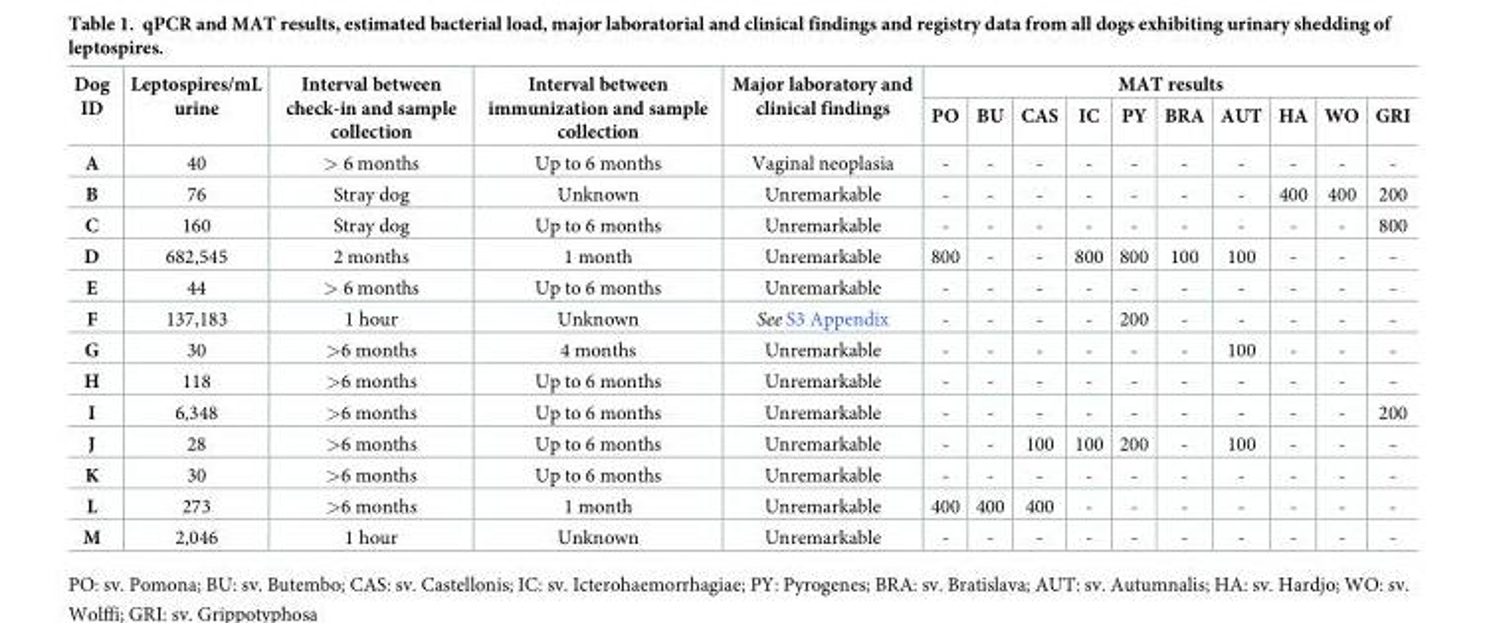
<table><thead><tr><td rowspan="2">Dog ID</td><td rowspan="2">Leptospires/mL urine</td><td rowspan="2">Interval between check-in and sample collection</td><td rowspan="2">Interval between immunization and sample collection</td><td rowspan="2">Major laboratory and clinical findings</td><td colspan="10">MAT results</td></tr><tr><td>PO</td><td>BU</td><td>CAS</td><td>IC</td><td>PY</td><td>BRA</td><td>AUT</td><td>HA</td><td>WO</td><td>GRI</td></tr></thead><tbody><tr><td>A</td><td>40</td><td>&gt; 6 months</td><td>Up to 6 months</td><td>Vaginal neoplasia</td><td>-</td><td>-</td><td>-</td><td>-</td><td>-</td><td>-</td><td>-</td><td>-</td><td>-</td><td>-</td></tr><tr><td>B</td><td>76</td><td>Stray dog</td><td>Unknown</td><td>Unremarkable</td><td>-</td><td>-</td><td>-</td><td>-</td><td>-</td><td>-</td><td>-</td><td>400</td><td>400</td><td>200</td></tr><tr><td>C</td><td>160</td><td>Stray dog</td><td>Up to 6 months</td><td>Unremarkable</td><td>-</td><td>-</td><td>-</td><td>-</td><td>-</td><td>-</td><td>-</td><td>-</td><td>-</td><td>800</td></tr><tr><td>D</td><td>682,545</td><td>2 months</td><td>1 month</td><td>Unremarkable</td><td>800</td><td>-</td><td>-</td><td>800</td><td>800</td><td>100</td><td>100</td><td>-</td><td>-</td><td>-</td></tr><tr><td>E</td><td>44</td><td>&gt; 6 months</td><td>Up to 6 months</td><td>Unremarkable</td><td>-</td><td>-</td><td>-</td><td>-</td><td>-</td><td>-</td><td>-</td><td>-</td><td>-</td><td>-</td></tr><tr><td>F</td><td>137,183</td><td>1 hour</td><td>Unknown</td><td>See S3 Appendix</td><td>-</td><td>-</td><td>-</td><td>-</td><td>200</td><td>-</td><td>-</td><td>-</td><td>-</td><td>-</td></tr><tr><td>G</td><td>30</td><td>&gt;6 months</td><td>4 months</td><td>Unremarkable</td><td>-</td><td>-</td><td>-</td><td>-</td><td>-</td><td>-</td><td>100</td><td>-</td><td>-</td><td>-</td></tr><tr><td>H</td><td>118</td><td>&gt;6 months</td><td>Up to 6 months</td><td>Unremarkable</td><td>-</td><td>-</td><td>-</td><td>-</td><td>-</td><td>-</td><td>-</td><td>-</td><td>-</td><td>-</td></tr><tr><td>I</td><td>6,348</td><td>&gt;6 months</td><td>Up to 6 months</td><td>Unremarkable</td><td>-</td><td>-</td><td>-</td><td>-</td><td>-</td><td>-</td><td>-</td><td>-</td><td>-</td><td>200</td></tr><tr><td>J</td><td>28</td><td>&gt;6 months</td><td>Up to 6 months</td><td>Unremarkable</td><td>-</td><td>-</td><td>100</td><td>100</td><td>200</td><td>-</td><td>100</td><td>-</td><td>-</td><td>-</td></tr><tr><td>K</td><td>30</td><td>&gt;6 months</td><td>Up to 6 months</td><td>Unremarkable</td><td>-</td><td>-</td><td>-</td><td>-</td><td>-</td><td>-</td><td>-</td><td>-</td><td>-</td><td>-</td></tr><tr><td>L</td><td>273</td><td>&gt;6 months</td><td>1 month</td><td>Unremarkable</td><td>400</td><td>400</td><td>400</td><td>-</td><td>-</td><td>-</td><td>-</td><td>-</td><td>-</td><td>-</td></tr><tr><td>M</td><td>2,046</td><td>1 hour</td><td>Unknown</td><td>Unremarkable</td><td>-</td><td>-</td><td>-</td><td>-</td><td>-</td><td>-</td><td>-</td><td>-</td><td>-</td><td>-</td></tr></tbody></table>